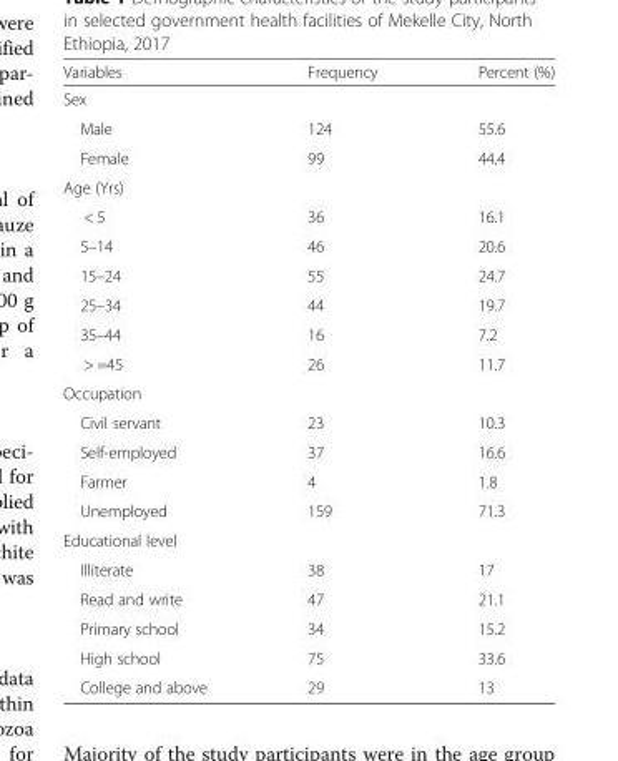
<table><thead><tr><td>Variables</td><td>Frequency</td><td>Percent (%)</td></tr></thead><tbody><tr><td colspan="3">Sex</td></tr><tr><td>Male</td><td>124</td><td>55.6</td></tr><tr><td>Female</td><td>99</td><td>44.4</td></tr><tr><td colspan="3">Age (Yrs)</td></tr><tr><td>&lt; 5</td><td>36</td><td>16.1</td></tr><tr><td>5–14</td><td>46</td><td>20.6</td></tr><tr><td>15–24</td><td>55</td><td>24.7</td></tr><tr><td>25–34</td><td>44</td><td>19.7</td></tr><tr><td>35–44</td><td>16</td><td>7.2</td></tr><tr><td>&gt; =45</td><td>26</td><td>11.7</td></tr><tr><td colspan="3">Occupation</td></tr><tr><td>Civil servant</td><td>23</td><td>10.3</td></tr><tr><td>Self-employed</td><td>37</td><td>16.6</td></tr><tr><td>Farmer</td><td>4</td><td>1.8</td></tr><tr><td>Unemployed</td><td>159</td><td>71.3</td></tr><tr><td colspan="3">Educational level</td></tr><tr><td>Illiterate</td><td>38</td><td>17</td></tr><tr><td>Read and write</td><td>47</td><td>21.1</td></tr><tr><td>Primary school</td><td>34</td><td>15.2</td></tr><tr><td>High school</td><td>75</td><td>33.6</td></tr><tr><td>College and above</td><td>29</td><td>13</td></tr></tbody></table>